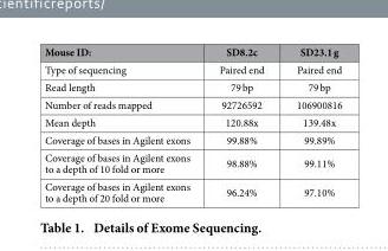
<table><thead><tr><td>Mouse ID:</td><td>SD8.2c</td><td>SD23.1 g</td></tr></thead><tbody><tr><td>Type of sequencing</td><td>Paired end</td><td>Paired end</td></tr><tr><td>Read length</td><td>79 bp</td><td>79 bp</td></tr><tr><td>Number of reads mapped</td><td>92726592</td><td>106900816</td></tr><tr><td>Mean depth</td><td>120.88x</td><td>139.48x</td></tr><tr><td>Coverage of bases in Agilent exons</td><td>99.88%</td><td>99.89%</td></tr><tr><td>Coverage of bases in Agilent exons to a depth of 10 fold or more</td><td>98.88%</td><td>99.11%</td></tr><tr><td>Coverage of bases in Agilent exons to a depth of 20 fold or more</td><td>96.24%</td><td>97.10%</td></tr></tbody></table>